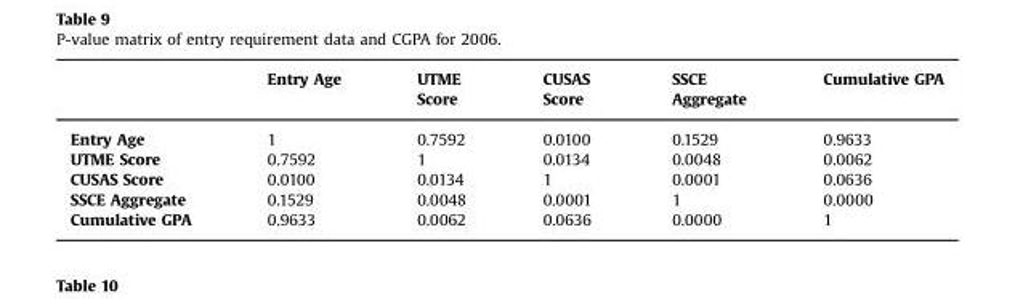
<table><thead><tr><td></td><td>Entry Age</td><td>UTME Score</td><td>CUSAS Score</td><td>SSCE Aggregate</td><td>Cumulative GPA</td></tr></thead><tbody><tr><td>Entry Age</td><td>1</td><td>0.7592</td><td>0.0100</td><td>0.1529</td><td>0.9633</td></tr><tr><td>UTME Score</td><td>0.7592</td><td>1</td><td>0.0134</td><td>0.0048</td><td>0.0062</td></tr><tr><td>CUSAS Score</td><td>0.0100</td><td>0.0134</td><td>1</td><td>0.0001</td><td>0.0636</td></tr><tr><td>SSCE Aggregate</td><td>0.1529</td><td>0.0048</td><td>0.0001</td><td>1</td><td>0.0000</td></tr><tr><td>Cumulative GPA</td><td>0.9633</td><td>0.0062</td><td>0.0636</td><td>0.0000</td><td>1</td></tr></tbody></table>